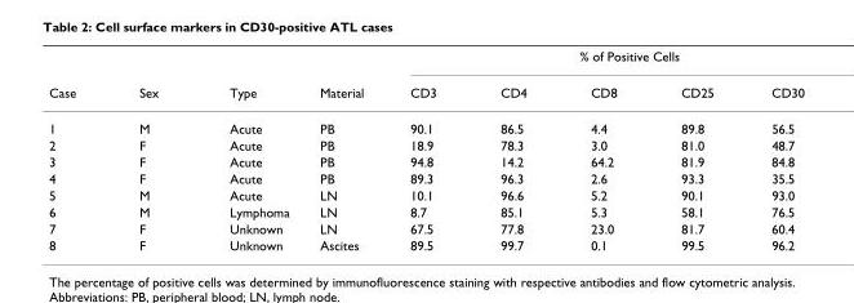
<table><thead><tr><td rowspan="2">Case</td><td rowspan="2">Sex</td><td rowspan="2">Type</td><td rowspan="2">Material</td><td colspan="5">% of Positive Cells</td></tr><tr><td>CD3</td><td>CD4</td><td>CD8</td><td>CD25</td><td>CD30</td></tr></thead><tbody><tr><td>1</td><td>M</td><td>Acute</td><td>PB</td><td>90.1</td><td>86.5</td><td>4.4</td><td>89.8</td><td>56.5</td></tr><tr><td>2</td><td>F</td><td>Acute</td><td>PB</td><td>18.9</td><td>78.3</td><td>3.0</td><td>81.0</td><td>48.7</td></tr><tr><td>3</td><td>F</td><td>Acute</td><td>PB</td><td>94.8</td><td>14.2</td><td>64.2</td><td>81.9</td><td>84.8</td></tr><tr><td>4</td><td>F</td><td>Acute</td><td>PB</td><td>89.3</td><td>96.3</td><td>2.6</td><td>93.3</td><td>35.5</td></tr><tr><td>5</td><td>M</td><td>Acute</td><td>LN</td><td>10.1</td><td>96.6</td><td>5.2</td><td>90.1</td><td>93.0</td></tr><tr><td>6</td><td>M</td><td>Lymphoma</td><td>LN</td><td>8.7</td><td>85.1</td><td>5.3</td><td>58.1</td><td>76.5</td></tr><tr><td>7</td><td>F</td><td>Unknown</td><td>LN</td><td>67.5</td><td>77.8</td><td>23.0</td><td>81.7</td><td>60.4</td></tr><tr><td>8</td><td>F</td><td>Unknown</td><td>Ascites</td><td>89.5</td><td>99.7</td><td>0.1</td><td>99.5</td><td>96.2</td></tr></tbody></table>